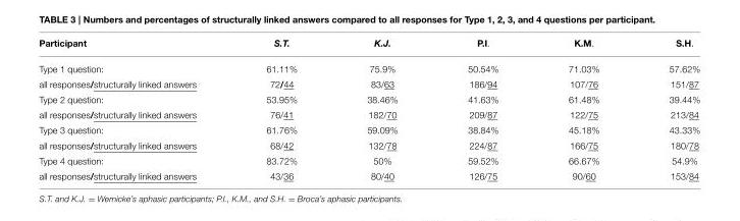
<table><thead><tr><td>Participant</td><td>S.T.</td><td>K.J.</td><td>P.I.</td><td>K.M.</td><td>S.H.</td></tr></thead><tbody><tr><td>Type 1 question:</td><td>61.11%</td><td>75.9%</td><td>50.54%</td><td>71.03%</td><td>57.62%</td></tr><tr><td>all responses/structurally linked answers</td><td>72/44</td><td>83/63</td><td>186/94</td><td>107/76</td><td>151/87</td></tr><tr><td>Type 2 question:</td><td>53.95%</td><td>38.46%</td><td>41.63%</td><td>61.48%</td><td>39.44%</td></tr><tr><td>all responses/structurally linked answers</td><td>76/41</td><td>182/70</td><td>209/87</td><td>122/75</td><td>213/84</td></tr><tr><td>Type 3 question:</td><td>61.76%</td><td>59.09%</td><td>38.84%</td><td>45.18%</td><td>43.33%</td></tr><tr><td>all responses/structurally linked answers</td><td>68/42</td><td>132/78</td><td>224/87</td><td>166/75</td><td>180/78</td></tr><tr><td>Type 4 question:</td><td>83.72%</td><td>50%</td><td>59.52%</td><td>66.67%</td><td>54.9%</td></tr><tr><td>all responses/structurally linked answers</td><td>43/36</td><td>80/40</td><td>126/75</td><td>90/60</td><td>153/84</td></tr></tbody></table>